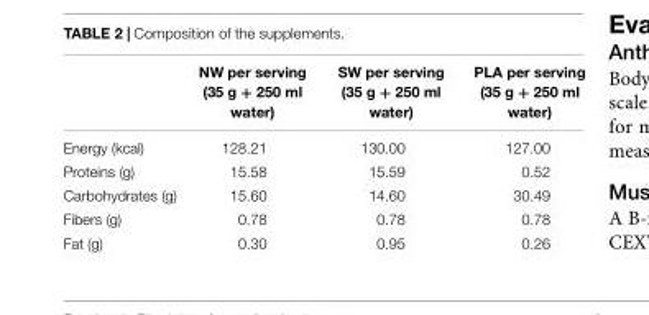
<table><thead><tr><td></td><td>NW per serving (35 g + 250 ml water)</td><td>SW per serving (35 g + 250 ml water)</td><td>PLA per serving (35 g + 250 ml water)</td></tr></thead><tbody><tr><td>Energy (kcal)</td><td>128.21</td><td>130.00</td><td>127.00</td></tr><tr><td>Proteins (g)</td><td>15.58</td><td>15.59</td><td>0.52</td></tr><tr><td>Carbohydrates (g)</td><td>15.60</td><td>14.60</td><td>30.49</td></tr><tr><td>Fibers (g)</td><td>0.78</td><td>0.78</td><td>0.78</td></tr><tr><td>Fat (g)</td><td>0.30</td><td>0.95</td><td>0.26</td></tr></tbody></table>